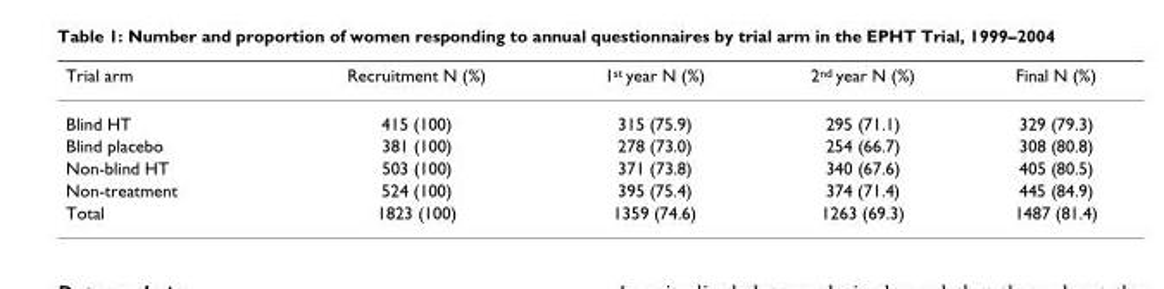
<table><thead><tr><td>Trial arm</td><td>Recruitment N (%)</td><td>1<sup>st</sup> year N (%)</td><td>2<sup>nd</sup> year N (%)</td><td>Final N (%)</td></tr></thead><tbody><tr><td>Blind HT</td><td>415 (100)</td><td>315 (75.9)</td><td>295 (71.1)</td><td>329 (79.3)</td></tr><tr><td>Blind placebo</td><td>381 (100)</td><td>278 (73.0)</td><td>254 (66.7)</td><td>308 (80.8)</td></tr><tr><td>Non-blind HT</td><td>503 (100)</td><td>371 (73.8)</td><td>340 (67.6)</td><td>405 (80.5)</td></tr><tr><td>Non-treatment</td><td>524 (100)</td><td>395 (75.4)</td><td>374 (71.4)</td><td>445 (84.9)</td></tr><tr><td>Total</td><td>1823 (100)</td><td>1359 (74.6)</td><td>1263 (69.3)</td><td>1487 (81.4)</td></tr></tbody></table>